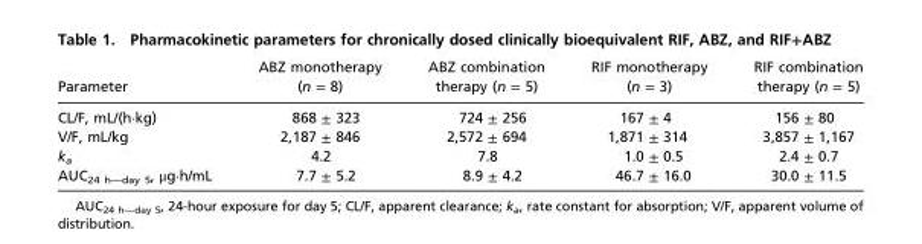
<table><thead><tr><td>Parameter</td><td>ABZ monotherapy (n = 8)</td><td>ABZ combination therapy (n = 5)</td><td>RIF monotherapy (n = 3)</td><td>RIF combination therapy (n = 5)</td></tr></thead><tbody><tr><td>CL/F, mL/(h·kg)</td><td>868 ± 323</td><td>724 ± 256</td><td>167 ± 4</td><td>156 ± 80</td></tr><tr><td>V/F, mL/kg</td><td>2,187 ± 846</td><td>2,572 ± 694</td><td>1,871 ± 314</td><td>3,857 ± 1,167</td></tr><tr><td>k<sub>a</sub></td><td>4.2</td><td>7.8</td><td>1.0 ± 0.5</td><td>2.4 ± 0.7</td></tr><tr><td>AUC24 h—day 5, μg·h/mL</td><td>7.7 ± 5.2</td><td>8.9 ± 4.2</td><td>46.7 ± 16.0</td><td>30.0 ± 11.5</td></tr></tbody></table>